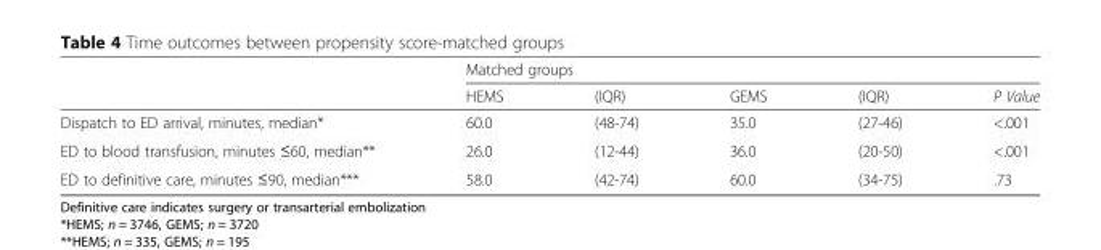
<table><thead><tr><td rowspan="2"></td><td colspan="5">Matched groups</td></tr><tr><td>HEMS</td><td>(IQR)</td><td>GEMS</td><td>(IQR)</td><td>P Value</td></tr></thead><tbody><tr><td>Dispatch to ED arrival, minutes, median*</td><td>60.0</td><td>(48-74)</td><td>35.0</td><td>(27-46)</td><td>&lt;.001</td></tr><tr><td>ED to blood transfusion, minutes ≤60, median**</td><td>26.0</td><td>(12-44)</td><td>36.0</td><td>(20-50)</td><td>&lt;.001</td></tr><tr><td>ED to definitive care, minutes ≤90, median***</td><td>58.0</td><td>(42-74)</td><td>60.0</td><td>(34-75)</td><td>.73</td></tr></tbody></table>